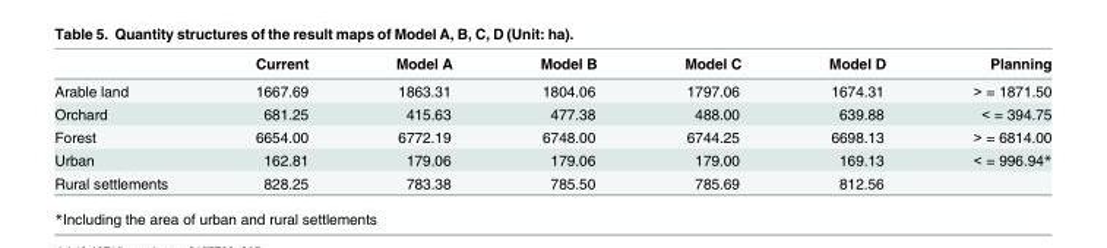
<table><thead><tr><td></td><td>Current</td><td>Model A</td><td>Model B</td><td>Model C</td><td>Model D</td><td>Planning</td></tr></thead><tbody><tr><td>Arable land</td><td>1667.69</td><td>1863.31</td><td>1804.06</td><td>1797.06</td><td>1674.31</td><td>&gt; = 1871.50</td></tr><tr><td>Orchard</td><td>681.25</td><td>415.63</td><td>477.38</td><td>488.00</td><td>639.88</td><td>&lt; = 394.75</td></tr><tr><td>Forest</td><td>6654.00</td><td>6772.19</td><td>6748.00</td><td>6744.25</td><td>6698.13</td><td>&gt; = 6814.00</td></tr><tr><td>Urban</td><td>162.81</td><td>179.06</td><td>179.06</td><td>179.00</td><td>169.13</td><td>&lt; = 996.94*</td></tr><tr><td>Rural settlements</td><td>828.25</td><td>783.38</td><td>785.50</td><td>785.69</td><td>812.56</td><td></td></tr></tbody></table>